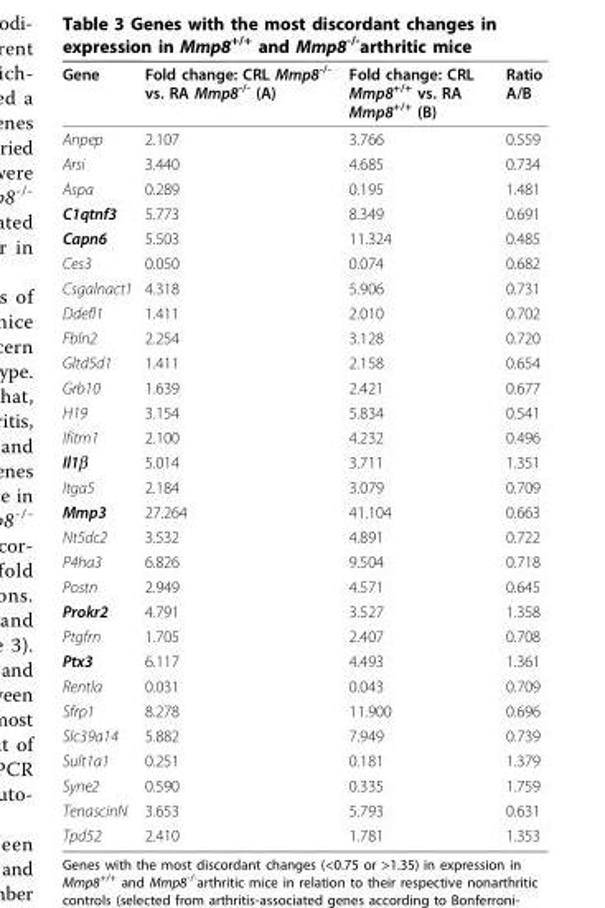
<table><thead><tr><td>Gene</td><td>Fold change: CRL Mmp8<sup>-/-</sup> vs. RA Mmp8<sup>-/-</sup> (A)</td><td>Fold change: CRL Mmp8<sup>+/+</sup> vs. RA Mmp8<sup>+/+</sup> (B)</td><td>Ratio A/B</td></tr></thead><tbody><tr><td>Anpep</td><td>2.107</td><td>3.766</td><td>0.559</td></tr><tr><td>Arsi</td><td>3.440</td><td>4.685</td><td>0.734</td></tr><tr><td>Aspa</td><td>0.289</td><td>0.195</td><td>1.481</td></tr><tr><td>C1qtnf3</td><td>5.773</td><td>8.349</td><td>0.691</td></tr><tr><td>Capn6</td><td>5.503</td><td>11.324</td><td>0.485</td></tr><tr><td>Ces3</td><td>0.050</td><td>0.074</td><td>0.682</td></tr><tr><td>Csgalnact1</td><td>4.318</td><td>5.906</td><td>0.731</td></tr><tr><td>Ddefl1</td><td>1.411</td><td>2.010</td><td>0.702</td></tr><tr><td>Fbln2</td><td>2.254</td><td>3.128</td><td>0.720</td></tr><tr><td>Gltd5d1</td><td>1.411</td><td>2.158</td><td>0.654</td></tr><tr><td>Grb10</td><td>1.639</td><td>2.421</td><td>0.677</td></tr><tr><td>H19</td><td>3.154</td><td>5.834</td><td>0.541</td></tr><tr><td>Ifitm1</td><td>2.100</td><td>4.232</td><td>0.496</td></tr><tr><td>Il1β</td><td>5.014</td><td>3.711</td><td>1.351</td></tr><tr><td>Itga5</td><td>2.184</td><td>3.079</td><td>0.709</td></tr><tr><td>Mmp3</td><td>27.264</td><td>41.104</td><td>0.663</td></tr><tr><td>Nt5dc2</td><td>3.532</td><td>4.891</td><td>0.722</td></tr><tr><td>P4ha3</td><td>6.826</td><td>9.504</td><td>0.718</td></tr><tr><td>Postn</td><td>2.949</td><td>4.571</td><td>0.645</td></tr><tr><td>Prokr2</td><td>4.791</td><td>3.527</td><td>1.358</td></tr><tr><td>Ptgfrn</td><td>1.705</td><td>2.407</td><td>0.708</td></tr><tr><td>Ptx3</td><td>6.117</td><td>4.493</td><td>1.361</td></tr><tr><td>Rentla</td><td>0.031</td><td>0.043</td><td>0.709</td></tr><tr><td>Sfrp1</td><td>8.278</td><td>11.900</td><td>0.696</td></tr><tr><td>Slc39a14</td><td>5.882</td><td>7.949</td><td>0.739</td></tr><tr><td>Sult1a1</td><td>0.251</td><td>0.181</td><td>1.379</td></tr><tr><td>Syne2</td><td>0.590</td><td>0.335</td><td>1.759</td></tr><tr><td>TenascinN</td><td>3.653</td><td>5.793</td><td>0.631</td></tr><tr><td>Tpd52</td><td>2.410</td><td>1.781</td><td>1.353</td></tr></tbody></table>